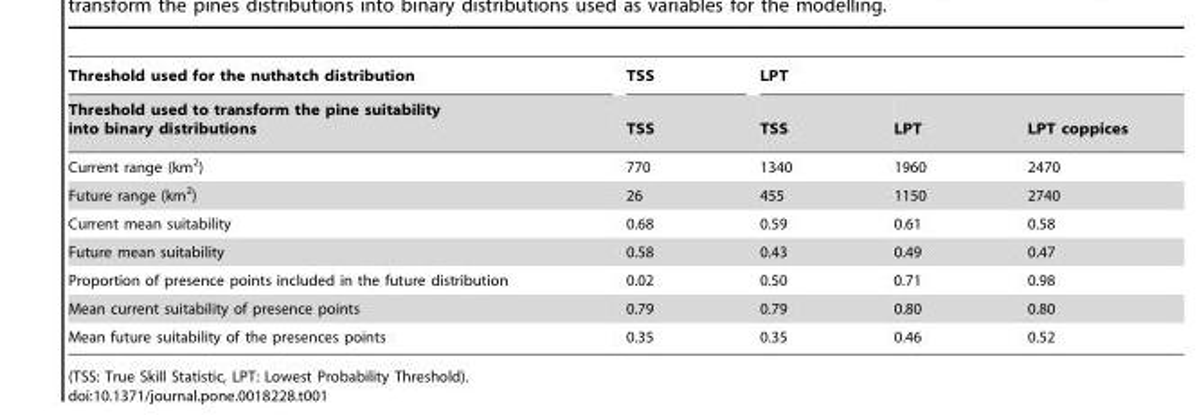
<table><thead><tr><td rowspan="2">Threshold used for the nuthatch distribution Threshold used to transform the pine suitability into binary distributions</td><td rowspan="2">TSS TSS</td><td colspan="3">LPT</td></tr><tr><td>TSS</td><td>LPT</td><td>LPT coppices</td></tr></thead><tbody><tr><td>Current range (km<sup>2</sup>)</td><td>770</td><td>1340</td><td>1960</td><td>2470</td></tr><tr><td>Future range (km<sup>2</sup>)</td><td>26</td><td>455</td><td>1150</td><td>2740</td></tr><tr><td>Current mean suitability</td><td>0.68</td><td>0.59</td><td>0.61</td><td>0.58</td></tr><tr><td>Future mean suitability</td><td>0.58</td><td>0.43</td><td>0.49</td><td>0.47</td></tr><tr><td>Proportion of presence points included in the future distribution</td><td>0.02</td><td>0.50</td><td>0.71</td><td>0.98</td></tr><tr><td>Mean current suitability of presence points</td><td>0.79</td><td>0.79</td><td>0.80</td><td>0.80</td></tr><tr><td>Mean future suitability of the presences points</td><td>0.35</td><td>0.35</td><td>0.46</td><td>0.52</td></tr></tbody></table>